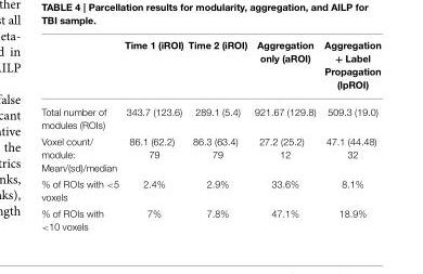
<table><thead><tr><td></td><td>Time 1 (iROI)</td><td>Time 2 (iROI)</td><td>Aggregation only (aROI)</td><td>Aggregation + Label Propagation (lpROI)</td></tr></thead><tbody><tr><td>Total number of modules (ROIs)</td><td>343.7 (123.6)</td><td>289.1 (5.4)</td><td>921.67 (129.8)</td><td>509.3 (19.0)</td></tr><tr><td>Voxel count/ module: Mean/(sd)/median</td><td>86.1 (62.2) 79</td><td>86.3 (63.4) 79</td><td>27.2 (25.2) 12</td><td>47.1 (44.48) 32</td></tr><tr><td>% of ROIs with &lt;5 voxels</td><td>2.4%</td><td>2.9%</td><td>33.6%</td><td>8.1%</td></tr><tr><td>% of ROIs with &lt;10 voxels</td><td>7%</td><td>7.8%</td><td>47.1%</td><td>18.9%</td></tr></tbody></table>